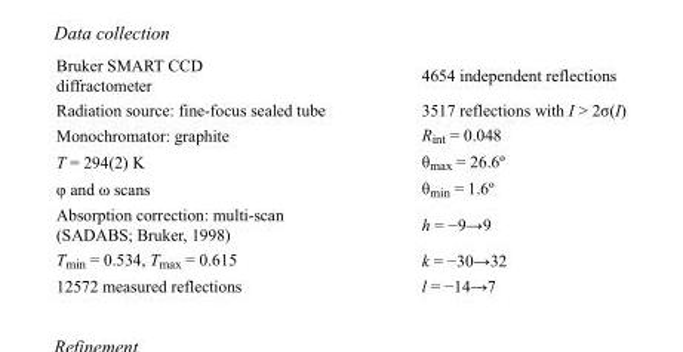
<table><tbody><tr><td>Bruker SMART CCD diffractometer</td><td>4654 independent reflections</td></tr><tr><td>Radiation source: fine-focus sealed tube</td><td>3517 reflections with I &gt; 2σ(I)</td></tr><tr><td>Monochromator: graphite</td><td>R<sub>int</sub> = 0.048</td></tr><tr><td>T = 294(2) K</td><td>θ<sub>max</sub> = 26.6º</td></tr><tr><td>φ and ω scans</td><td>θ<sub>min</sub> = 1.6º</td></tr><tr><td>Absorption correction: multi-scan (SADABS; Bruker, 1998)</td><td>h = −9→9</td></tr><tr><td>T<sub>min</sub> = 0.534, T<sub>max</sub> = 0.615</td><td>k = −30→32</td></tr><tr><td>12572 measured reflections</td><td>l = −14→7</td></tr></tbody></table>